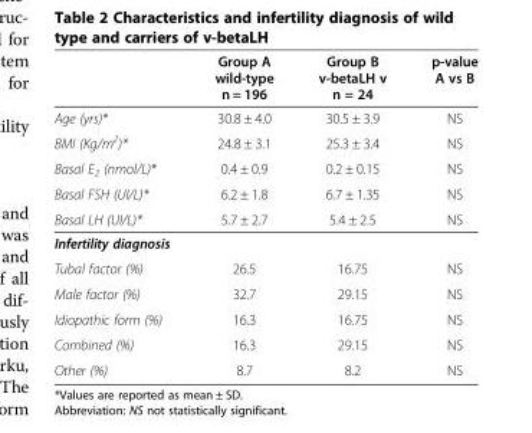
<table><thead><tr><td></td><td>Group A wild-type n = 196</td><td>Group B v-betaLH v n = 24</td><td>p-value A vs B</td></tr></thead><tbody><tr><td>Age (yrs)*</td><td>30.8 ± 4.0</td><td>30.5 ± 3.9</td><td>NS</td></tr><tr><td>BMI (Kg/m<sup>2</sup>)*</td><td>24.8 ± 3.1</td><td>25.3 ± 3.4</td><td>NS</td></tr><tr><td>Basal E<sub>2</sub> (nmol/L)*</td><td>0.4 ± 0.9</td><td>0.2 ± 0.15</td><td>NS</td></tr><tr><td>Basal FSH (UI/L)*</td><td>6.2 ± 1.8</td><td>6.7 ± 1.35</td><td>NS</td></tr><tr><td>Basal LH (UI/L)*</td><td>5.7 ± 2.7</td><td>5.4 ± 2.5</td><td>NS</td></tr><tr><td colspan="4">Infertility diagnosis</td></tr><tr><td>Tubal factor (%)</td><td>26.5</td><td>16.75</td><td>NS</td></tr><tr><td>Male factor (%)</td><td>32.7</td><td>29.15</td><td>NS</td></tr><tr><td>Idiopathic form (%)</td><td>16.3</td><td>16.75</td><td>NS</td></tr><tr><td>Combined (%)</td><td>16.3</td><td>29.15</td><td>NS</td></tr><tr><td>Other (%)</td><td>8.7</td><td>8.2</td><td>NS</td></tr></tbody></table>